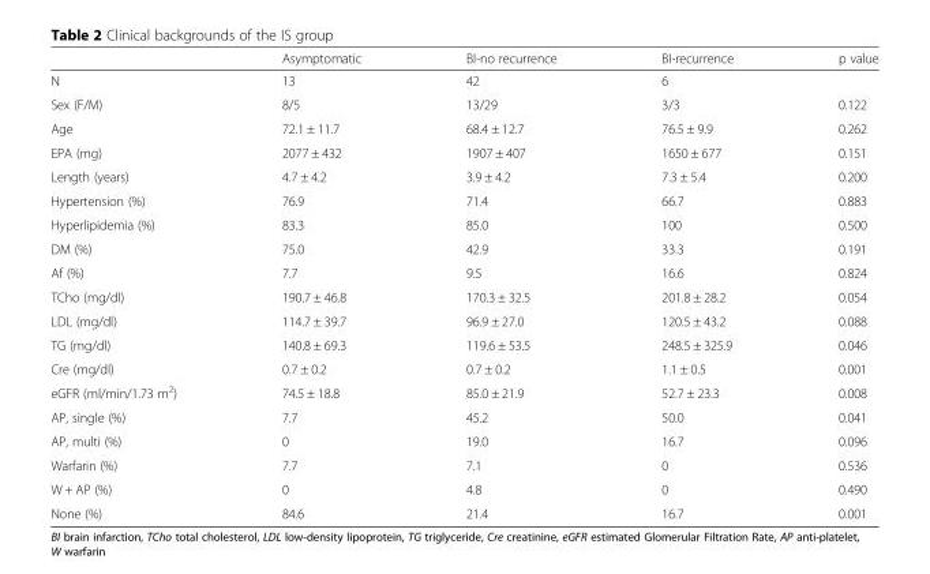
<table><thead><tr><td></td><td>Asymptomatic</td><td>BI-no recurrence</td><td>BI-recurrence</td><td>p value</td></tr></thead><tbody><tr><td>N</td><td>13</td><td>42</td><td>6</td><td></td></tr><tr><td>Sex (F/M)</td><td>8/5</td><td>13/29</td><td>3/3</td><td>0.122</td></tr><tr><td>Age</td><td>72.1 ± 11.7</td><td>68.4 ± 12.7</td><td>76.5 ± 9.9</td><td>0.262</td></tr><tr><td>EPA (mg)</td><td>2077 ± 432</td><td>1907 ± 407</td><td>1650 ± 677</td><td>0.151</td></tr><tr><td>Length (years)</td><td>4.7 ± 4.2</td><td>3.9 ± 4.2</td><td>7.3 ± 5.4</td><td>0.200</td></tr><tr><td>Hypertension (%)</td><td>76.9</td><td>71.4</td><td>66.7</td><td>0.883</td></tr><tr><td>Hyperlipidemia (%)</td><td>83.3</td><td>85.0</td><td>100</td><td>0.500</td></tr><tr><td>DM (%)</td><td>75.0</td><td>42.9</td><td>33.3</td><td>0.191</td></tr><tr><td>Af (%)</td><td>7.7</td><td>9.5</td><td>16.6</td><td>0.824</td></tr><tr><td>TCho (mg/dl)</td><td>190.7 ± 46.8</td><td>170.3 ± 32.5</td><td>201.8 ± 28.2</td><td>0.054</td></tr><tr><td>LDL (mg/dl)</td><td>114.7 ± 39.7</td><td>96.9 ± 27.0</td><td>120.5 ± 43.2</td><td>0.088</td></tr><tr><td>TG (mg/dl)</td><td>140.8 ± 69.3</td><td>119.6 ± 53.5</td><td>248.5 ± 325.9</td><td>0.046</td></tr><tr><td>Cre (mg/dl)</td><td>0.7 ± 0.2</td><td>0.7 ± 0.2</td><td>1.1 ± 0.5</td><td>0.001</td></tr><tr><td>eGFR (ml/min/1.73 m<sup>2</sup>)</td><td>74.5 ± 18.8</td><td>85.0 ± 21.9</td><td>52.7 ± 23.3</td><td>0.008</td></tr><tr><td>AP, single (%)</td><td>7.7</td><td>45.2</td><td>50.0</td><td>0.041</td></tr><tr><td>AP, multi (%)</td><td>0</td><td>19.0</td><td>16.7</td><td>0.096</td></tr><tr><td>Warfarin (%)</td><td>7.7</td><td>7.1</td><td>0</td><td>0.536</td></tr><tr><td>W + AP (%)</td><td>0</td><td>4.8</td><td>0</td><td>0.490</td></tr><tr><td>None (%)</td><td>84.6</td><td>21.4</td><td>16.7</td><td>0.001</td></tr></tbody></table>